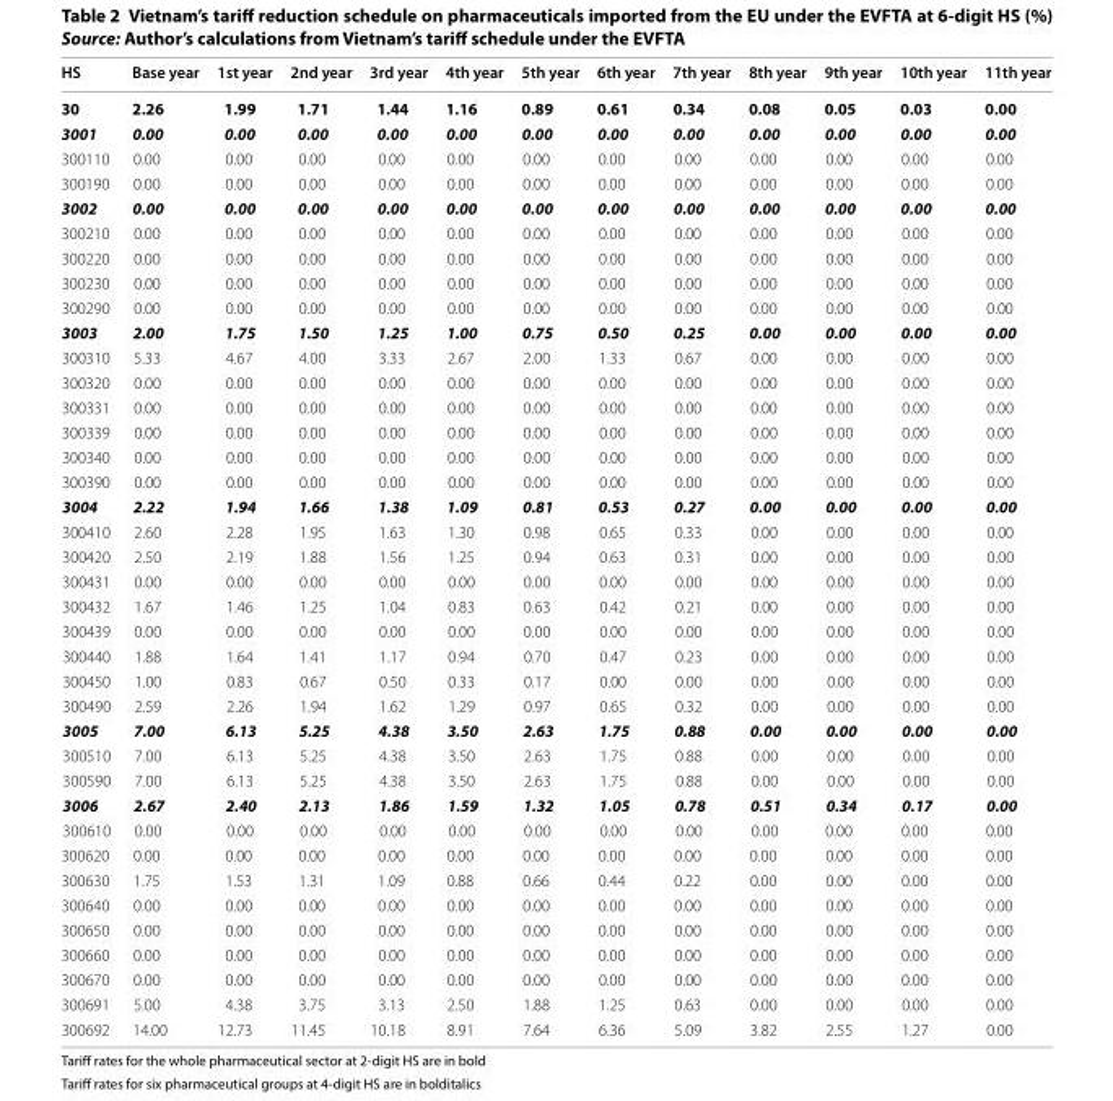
<table><thead><tr><td>HS</td><td>Base year</td><td>1st year</td><td>2nd year</td><td>3rd year</td><td>4th year</td><td>5th year</td><td>6th year</td><td>7th year</td><td>8th year</td><td>9th year</td><td>10th year</td><td>11th year</td></tr></thead><tbody><tr><td>30</td><td>2.26</td><td>1.99</td><td>1.71</td><td>1.44</td><td>1.16</td><td>0.89</td><td>0.61</td><td>0.34</td><td>0.08</td><td>0.05</td><td>0.03</td><td>0.00</td></tr><tr><td>3001</td><td>0.00</td><td>0.00</td><td>0.00</td><td>0.00</td><td>0.00</td><td>0.00</td><td>0.00</td><td>0.00</td><td>0.00</td><td>0.00</td><td>0.00</td><td>0.00</td></tr><tr><td>300110</td><td>0.00</td><td>0.00</td><td>0.00</td><td>0.00</td><td>0.00</td><td>0.00</td><td>0.00</td><td>0.00</td><td>0.00</td><td>0.00</td><td>0.00</td><td>0.00</td></tr><tr><td>300190</td><td>0.00</td><td>0.00</td><td>0.00</td><td>0.00</td><td>0.00</td><td>0.00</td><td>0.00</td><td>0.00</td><td>0.00</td><td>0.00</td><td>0.00</td><td>0.00</td></tr><tr><td>3002</td><td>0.00</td><td>0.00</td><td>0.00</td><td>0.00</td><td>0.00</td><td>0.00</td><td>0.00</td><td>0.00</td><td>0.00</td><td>0.00</td><td>0.00</td><td>0.00</td></tr><tr><td>300210</td><td>0.00</td><td>0.00</td><td>0.00</td><td>0.00</td><td>0.00</td><td>0.00</td><td>0.00</td><td>0.00</td><td>0.00</td><td>0.00</td><td>0.00</td><td>0.00</td></tr><tr><td>300220</td><td>0.00</td><td>0.00</td><td>0.00</td><td>0.00</td><td>0.00</td><td>0.00</td><td>0.00</td><td>0.00</td><td>0.00</td><td>0.00</td><td>0.00</td><td>0.00</td></tr><tr><td>300230</td><td>0.00</td><td>0.00</td><td>0.00</td><td>0.00</td><td>0.00</td><td>0.00</td><td>0.00</td><td>0.00</td><td>0.00</td><td>0.00</td><td>0.00</td><td>0.00</td></tr><tr><td>300290</td><td>0.00</td><td>0.00</td><td>0.00</td><td>0.00</td><td>0.00</td><td>0.00</td><td>0.00</td><td>0.00</td><td>0.00</td><td>0.00</td><td>0.00</td><td>0.00</td></tr><tr><td>3003</td><td>2.00</td><td>1.75</td><td>1.50</td><td>1.25</td><td>1.00</td><td>0.75</td><td>0.50</td><td>0.25</td><td>0.00</td><td>0.00</td><td>0.00</td><td>0.00</td></tr><tr><td>300310</td><td>5.33</td><td>4.67</td><td>4.00</td><td>3.33</td><td>2.67</td><td>2.00</td><td>1.33</td><td>0.67</td><td>0.00</td><td>0.00</td><td>0.00</td><td>0.00</td></tr><tr><td>300320</td><td>0.00</td><td>0.00</td><td>0.00</td><td>0.00</td><td>0.00</td><td>0.00</td><td>0.00</td><td>0.00</td><td>0.00</td><td>0.00</td><td>0.00</td><td>0.00</td></tr><tr><td>300331</td><td>0.00</td><td>0.00</td><td>0.00</td><td>0.00</td><td>0.00</td><td>0.00</td><td>0.00</td><td>0.00</td><td>0.00</td><td>0.00</td><td>0.00</td><td>0.00</td></tr><tr><td>300339</td><td>0.00</td><td>0.00</td><td>0.00</td><td>0.00</td><td>0.00</td><td>0.00</td><td>0.00</td><td>0.00</td><td>0.00</td><td>0.00</td><td>0.00</td><td>0.00</td></tr><tr><td>300340</td><td>0.00</td><td>0.00</td><td>0.00</td><td>0.00</td><td>0.00</td><td>0.00</td><td>0.00</td><td>0.00</td><td>0.00</td><td>0.00</td><td>0.00</td><td>0.00</td></tr><tr><td>300390</td><td>0.00</td><td>0.00</td><td>0.00</td><td>0.00</td><td>0.00</td><td>0.00</td><td>0.00</td><td>0.00</td><td>0.00</td><td>0.00</td><td>0.00</td><td>0.00</td></tr><tr><td>3004</td><td>2.22</td><td>1.94</td><td>1.66</td><td>1.38</td><td>1.09</td><td>0.81</td><td>0.53</td><td>0.27</td><td>0.00</td><td>0.00</td><td>0.00</td><td>0.00</td></tr><tr><td>300410</td><td>2.60</td><td>2.28</td><td>1.95</td><td>1.63</td><td>1.30</td><td>0.98</td><td>0.65</td><td>0.33</td><td>0.00</td><td>0.00</td><td>0.00</td><td>0.00</td></tr><tr><td>300420</td><td>2.50</td><td>2.19</td><td>1.88</td><td>1.56</td><td>1.25</td><td>0.94</td><td>0.63</td><td>0.31</td><td>0.00</td><td>0.00</td><td>0.00</td><td>0.00</td></tr><tr><td>300431</td><td>0.00</td><td>0.00</td><td>0.00</td><td>0.00</td><td>0.00</td><td>0.00</td><td>0.00</td><td>0.00</td><td>0.00</td><td>0.00</td><td>0.00</td><td>0.00</td></tr><tr><td>300432</td><td>1.67</td><td>1.46</td><td>1.25</td><td>1.04</td><td>0.83</td><td>0.63</td><td>0.42</td><td>0.21</td><td>0.00</td><td>0.00</td><td>0.00</td><td>0.00</td></tr><tr><td>300439</td><td>0.00</td><td>0.00</td><td>0.00</td><td>0.00</td><td>0.00</td><td>0.00</td><td>0.00</td><td>0.00</td><td>0.00</td><td>0.00</td><td>0.00</td><td>0.00</td></tr><tr><td>300440</td><td>1.88</td><td>1.64</td><td>1.41</td><td>1.17</td><td>0.94</td><td>0.70</td><td>0.47</td><td>0.23</td><td>0.00</td><td>0.00</td><td>0.00</td><td>0.00</td></tr><tr><td>300450</td><td>1.00</td><td>0.83</td><td>0.67</td><td>0.50</td><td>0.33</td><td>0.17</td><td>0.00</td><td>0.00</td><td>0.00</td><td>0.00</td><td>0.00</td><td>0.00</td></tr><tr><td>300490</td><td>2.59</td><td>2.26</td><td>1.94</td><td>1.62</td><td>1.29</td><td>0.97</td><td>0.65</td><td>0.32</td><td>0.00</td><td>0.00</td><td>0.00</td><td>0.00</td></tr><tr><td>3005</td><td>7.00</td><td>6.13</td><td>5.25</td><td>4.38</td><td>3.50</td><td>2.63</td><td>1.75</td><td>0.88</td><td>0.00</td><td>0.00</td><td>0.00</td><td>0.00</td></tr><tr><td>300510</td><td>7.00</td><td>6.13</td><td>5.25</td><td>4.38</td><td>3.50</td><td>2.63</td><td>1.75</td><td>0.88</td><td>0.00</td><td>0.00</td><td>0.00</td><td>0.00</td></tr><tr><td>300590</td><td>7.00</td><td>6.13</td><td>5.25</td><td>4.38</td><td>3.50</td><td>2.63</td><td>1.75</td><td>0.88</td><td>0.00</td><td>0.00</td><td>0.00</td><td>0.00</td></tr><tr><td>3006</td><td>2.67</td><td>2.40</td><td>2.13</td><td>1.86</td><td>1.59</td><td>1.32</td><td>1.05</td><td>0.78</td><td>0.51</td><td>0.34</td><td>0.17</td><td>0.00</td></tr><tr><td>300610</td><td>0.00</td><td>0.00</td><td>0.00</td><td>0.00</td><td>0.00</td><td>0.00</td><td>0.00</td><td>0.00</td><td>0.00</td><td>0.00</td><td>0.00</td><td>0.00</td></tr><tr><td>300620</td><td>0.00</td><td>0.00</td><td>0.00</td><td>0.00</td><td>0.00</td><td>0.00</td><td>0.00</td><td>0.00</td><td>0.00</td><td>0.00</td><td>0.00</td><td>0.00</td></tr><tr><td>300630</td><td>1.75</td><td>1.53</td><td>1.31</td><td>1.09</td><td>0.88</td><td>0.66</td><td>0.44</td><td>0.22</td><td>0.00</td><td>0.00</td><td>0.00</td><td>0.00</td></tr><tr><td>300640</td><td>0.00</td><td>0.00</td><td>0.00</td><td>0.00</td><td>0.00</td><td>0.00</td><td>0.00</td><td>0.00</td><td>0.00</td><td>0.00</td><td>0.00</td><td>0.00</td></tr><tr><td>300650</td><td>0.00</td><td>0.00</td><td>0.00</td><td>0.00</td><td>0.00</td><td>0.00</td><td>0.00</td><td>0.00</td><td>0.00</td><td>0.00</td><td>0.00</td><td>0.00</td></tr><tr><td>300660</td><td>0.00</td><td>0.00</td><td>0.00</td><td>0.00</td><td>0.00</td><td>0.00</td><td>0.00</td><td>0.00</td><td>0.00</td><td>0.00</td><td>0.00</td><td>0.00</td></tr><tr><td>300670</td><td>0.00</td><td>0.00</td><td>0.00</td><td>0.00</td><td>0.00</td><td>0.00</td><td>0.00</td><td>0.00</td><td>0.00</td><td>0.00</td><td>0.00</td><td>0.00</td></tr><tr><td>300691</td><td>5.00</td><td>4.38</td><td>3.75</td><td>3.13</td><td>2.50</td><td>1.88</td><td>1.25</td><td>0.63</td><td>0.00</td><td>0.00</td><td>0.00</td><td>0.00</td></tr><tr><td>300692</td><td>14.00</td><td>12.73</td><td>11.45</td><td>10.18</td><td>8.91</td><td>7.64</td><td>6.36</td><td>5.09</td><td>3.82</td><td>2.55</td><td>1.27</td><td>0.00</td></tr></tbody></table>